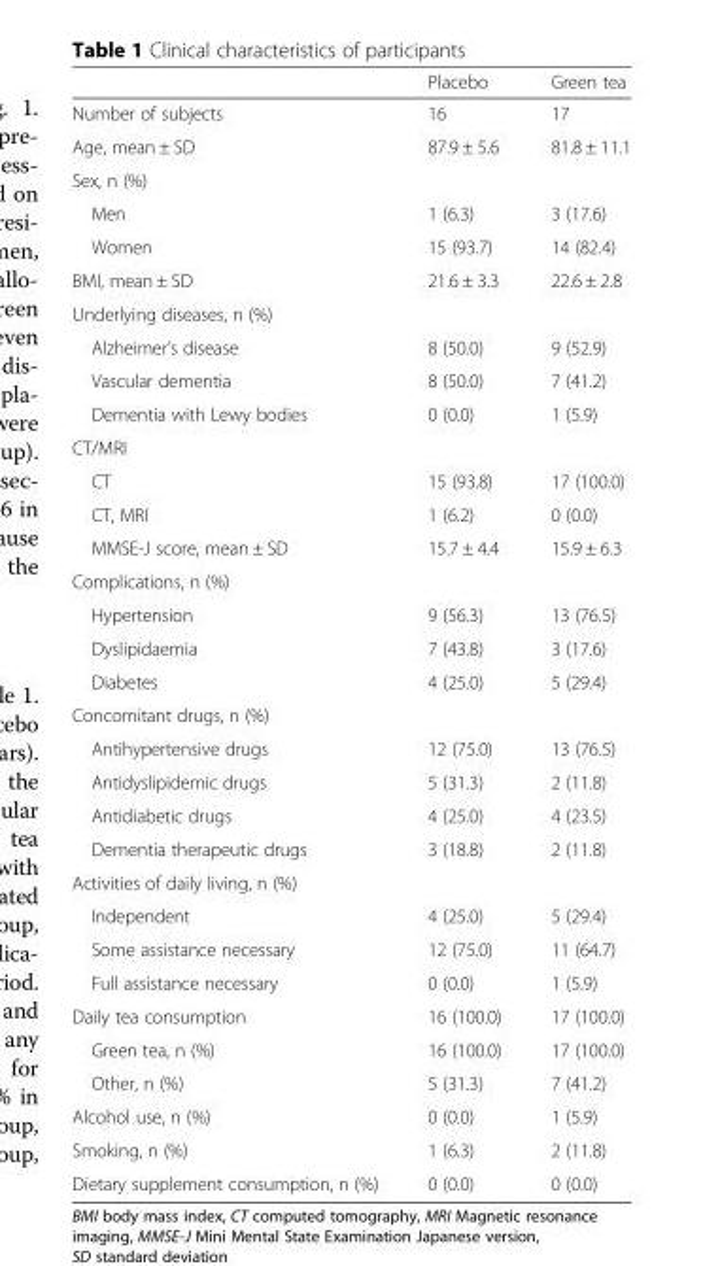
<table><thead><tr><td></td><td>Placebo</td><td>Green tea</td></tr></thead><tbody><tr><td>Number of subjects</td><td>16</td><td>17</td></tr><tr><td>Age, mean ± SD</td><td>87.9 ± 5.6</td><td>81.8 ± 11.1</td></tr><tr><td colspan="3">Sex, n (%)</td></tr><tr><td>Men</td><td>1 (6.3)</td><td>3 (17.6)</td></tr><tr><td>Women</td><td>15 (93.7)</td><td>14 (82.4)</td></tr><tr><td>BMI, mean ± SD</td><td>21.6 ± 3.3</td><td>22.6 ± 2.8</td></tr><tr><td colspan="3">Underlying diseases, n (%)</td></tr><tr><td>Alzheimer’s disease</td><td>8 (50.0)</td><td>9 (52.9)</td></tr><tr><td>Vascular dementia</td><td>8 (50.0)</td><td>7 (41.2)</td></tr><tr><td>Dementia with Lewy bodies</td><td>0 (0.0)</td><td>1 (5.9)</td></tr><tr><td colspan="3">CT/MRI</td></tr><tr><td>CT</td><td>15 (93.8)</td><td>17 (100.0)</td></tr><tr><td>CT, MRI</td><td>1 (6.2)</td><td>0 (0.0)</td></tr><tr><td>MMSE-J score, mean ± SD</td><td>15.7 ± 4.4</td><td>15.9 ± 6.3</td></tr><tr><td colspan="3">Complications, n (%)</td></tr><tr><td>Hypertension</td><td>9 (56.3)</td><td>13 (76.5)</td></tr><tr><td>Dyslipidaemia</td><td>7 (43.8)</td><td>3 (17.6)</td></tr><tr><td>Diabetes</td><td>4 (25.0)</td><td>5 (29.4)</td></tr><tr><td colspan="3">Concomitant drugs, n (%)</td></tr><tr><td>Antihypertensive drugs</td><td>12 (75.0)</td><td>13 (76.5)</td></tr><tr><td>Antidyslipidemic drugs</td><td>5 (31.3)</td><td>2 (11.8)</td></tr><tr><td>Antidiabetic drugs</td><td>4 (25.0)</td><td>4 (23.5)</td></tr><tr><td>Dementia therapeutic drugs</td><td>3 (18.8)</td><td>2 (11.8)</td></tr><tr><td colspan="3">Activities of daily living, n (%)</td></tr><tr><td>Independent</td><td>4 (25.0)</td><td>5 (29.4)</td></tr><tr><td>Some assistance necessary</td><td>12 (75.0)</td><td>11 (64.7)</td></tr><tr><td>Full assistance necessary</td><td>0 (0.0)</td><td>1 (5.9)</td></tr><tr><td>Daily tea consumption</td><td>16 (100.0)</td><td>17 (100.0)</td></tr><tr><td>Green tea, n (%)</td><td>16 (100.0)</td><td>17 (100.0)</td></tr><tr><td>Other, n (%)</td><td>5 (31.3)</td><td>7 (41.2)</td></tr><tr><td>Alcohol use, n (%)</td><td>0 (0.0)</td><td>1 (5.9)</td></tr><tr><td>Smoking, n (%)</td><td>1 (6.3)</td><td>2 (11.8)</td></tr><tr><td>Dietary supplement consumption, n (%)</td><td>0 (0.0)</td><td>0 (0.0)</td></tr></tbody></table>